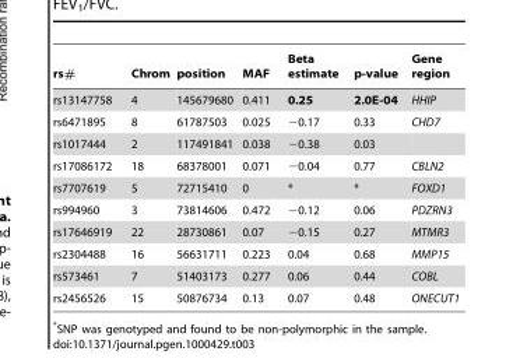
<table><thead><tr><td>rs#</td><td>Chrom</td><td>position</td><td>MAF</td><td>Beta estimate</td><td>p-value</td><td>Gene region</td></tr></thead><tbody><tr><td>rs13147758</td><td>4</td><td>145679680</td><td>0.411</td><td>0.25</td><td>2.0E-04</td><td>HHIP</td></tr><tr><td>rs6471895</td><td>8</td><td>61787503</td><td>0.025</td><td>−0.17</td><td>0.33</td><td>CHD7</td></tr><tr><td>rs1017444</td><td>2</td><td>117491841</td><td>0.038</td><td>−0.38</td><td>0.03</td><td></td></tr><tr><td>rs17086172</td><td>18</td><td>68378001</td><td>0.071</td><td>−0.04</td><td>0.77</td><td>CBLN2</td></tr><tr><td>rs7707619</td><td>5</td><td>72715410</td><td>0</td><td>*</td><td>*</td><td>FOXD1</td></tr><tr><td>rs994960</td><td>3</td><td>73814606</td><td>0.472</td><td>−0.12</td><td>0.06</td><td>PDZRN3</td></tr><tr><td>rs17646919</td><td>22</td><td>28730861</td><td>0.07</td><td>−0.15</td><td>0.27</td><td>MTMR3</td></tr><tr><td>rs2304488</td><td>16</td><td>56631711</td><td>0.223</td><td>0.04</td><td>0.68</td><td>MMP15</td></tr><tr><td>rs573461</td><td>7</td><td>51403173</td><td>0.277</td><td>0.06</td><td>0.44</td><td>COBL</td></tr><tr><td>rs2456526</td><td>15</td><td>50876734</td><td>0.13</td><td>0.07</td><td>0.48</td><td>ONECUT1</td></tr></tbody></table>